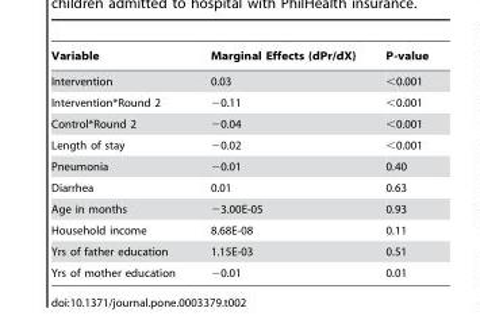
<table><thead><tr><td>Variable</td><td>Marginal Effects (dPr/dX)</td><td>P-value</td></tr></thead><tbody><tr><td>Intervention</td><td>0.03</td><td>&lt;0.001</td></tr><tr><td>Intervention*Round 2</td><td>−0.11</td><td>&lt;0.001</td></tr><tr><td>Control*Round 2</td><td>−0.04</td><td>&lt;0.001</td></tr><tr><td>Length of stay</td><td>−0.02</td><td>&lt;0.001</td></tr><tr><td>Pneumonia</td><td>−0.01</td><td>0.40</td></tr><tr><td>Diarrhea</td><td>0.01</td><td>0.63</td></tr><tr><td>Age in months</td><td>−3.00E-05</td><td>0.93</td></tr><tr><td>Household income</td><td>8.68E-08</td><td>0.11</td></tr><tr><td>Yrs of father education</td><td>1.15E-03</td><td>0.51</td></tr><tr><td>Yrs of mother education</td><td>−0.01</td><td>0.01</td></tr></tbody></table>